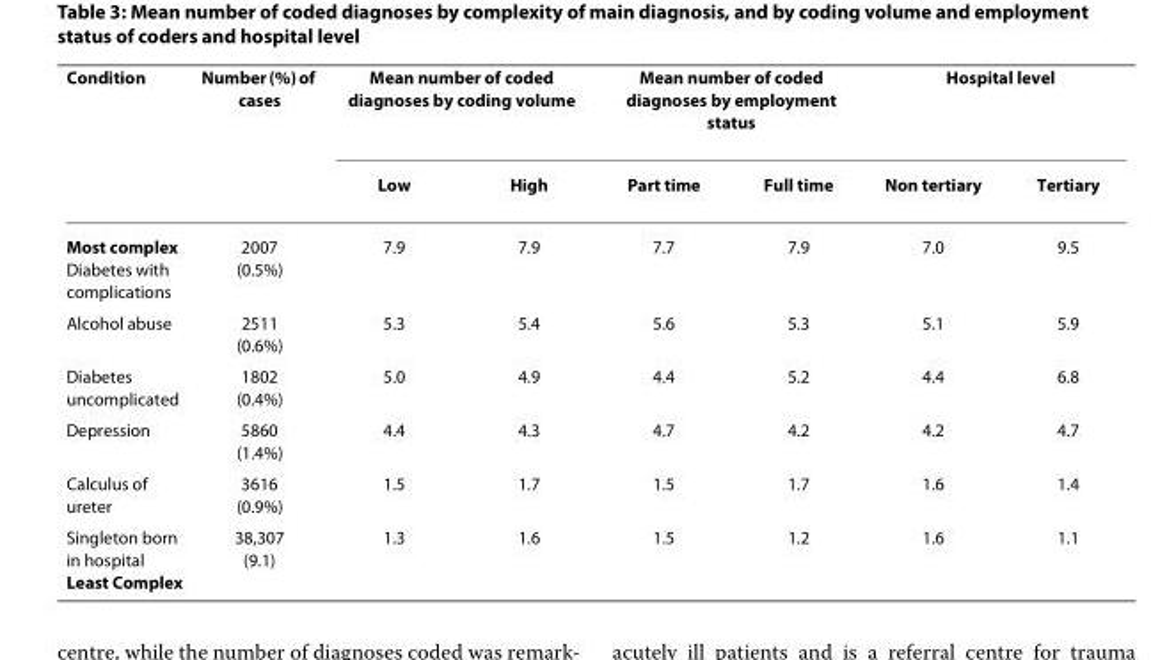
<table><thead><tr><td rowspan="2">Condition</td><td rowspan="2">Number (%) of cases</td><td colspan="2">Mean number of coded diagnoses by coding volume</td><td colspan="2">Mean number of coded diagnoses by employment status</td><td colspan="2">Hospital level</td></tr><tr><td>Low</td><td>High</td><td>Part time</td><td>Full time</td><td>Non tertiary</td><td>Tertiary</td></tr></thead><tbody><tr><td>Most complex Diabetes with complications</td><td>2007 (0.5%)</td><td>7.9</td><td>7.9</td><td>7.7</td><td>7.9</td><td>7.0</td><td>9.5</td></tr><tr><td>Alcohol abuse</td><td>2511 (0.6%)</td><td>5.3</td><td>5.4</td><td>5.6</td><td>5.3</td><td>5.1</td><td>5.9</td></tr><tr><td>Diabetes uncomplicated</td><td>1802 (0.4%)</td><td>5.0</td><td>4.9</td><td>4.4</td><td>5.2</td><td>4.4</td><td>6.8</td></tr><tr><td>Depression</td><td>5860 (1.4%)</td><td>4.4</td><td>4.3</td><td>4.7</td><td>4.2</td><td>4.2</td><td>4.7</td></tr><tr><td>Calculus of ureter</td><td>3616 (0.9%)</td><td>1.5</td><td>1.7</td><td>1.5</td><td>1.7</td><td>1.6</td><td>1.4</td></tr><tr><td>Singleton born in hospital Least Complex</td><td>38,307 (9.1)</td><td>1.3</td><td>1.6</td><td>1.5</td><td>1.2</td><td>1.6</td><td>1.1</td></tr></tbody></table>